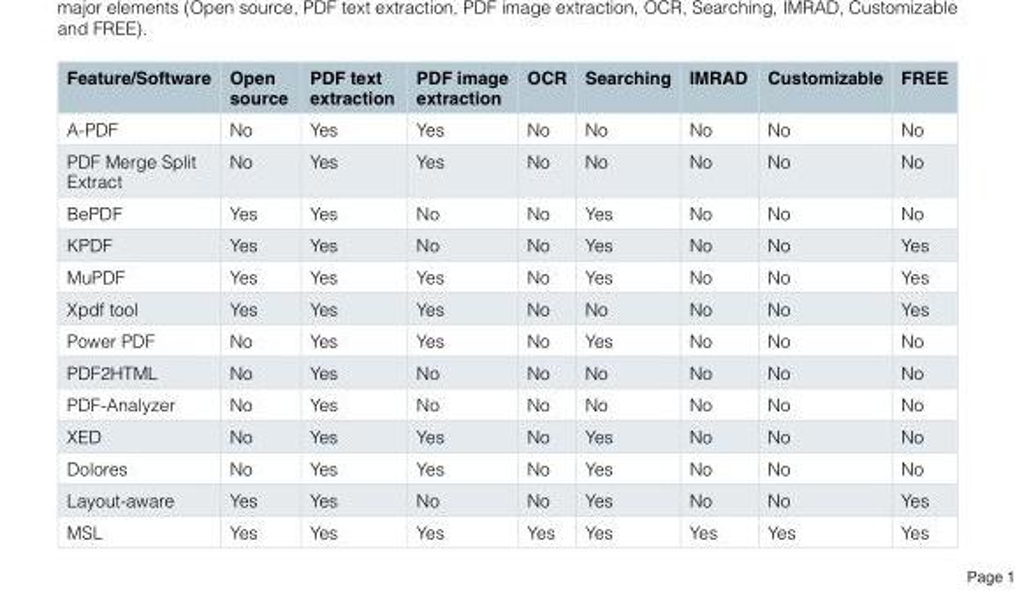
<table><thead><tr><td>Feature/Software</td><td>Open source</td><td>PDF text extraction</td><td>PDF image extraction</td><td>OCR</td><td>Searching</td><td>IMRAD</td><td>Customizable</td><td>FREE</td></tr></thead><tbody><tr><td>A-PDF</td><td>No</td><td>Yes</td><td>Yes</td><td>No</td><td>No</td><td>No</td><td>No</td><td>No</td></tr><tr><td>PDF Merge Split Extract</td><td>No</td><td>Yes</td><td>Yes</td><td>No</td><td>No</td><td>No</td><td>No</td><td>No</td></tr><tr><td>BePDF</td><td>Yes</td><td>Yes</td><td>No</td><td>No</td><td>Yes</td><td>No</td><td>No</td><td>No</td></tr><tr><td>KPDF</td><td>Yes</td><td>Yes</td><td>No</td><td>No</td><td>Yes</td><td>No</td><td>No</td><td>Yes</td></tr><tr><td>MuPDF</td><td>Yes</td><td>Yes</td><td>Yes</td><td>No</td><td>Yes</td><td>No</td><td>No</td><td>Yes</td></tr><tr><td>Xpdf tool</td><td>Yes</td><td>Yes</td><td>Yes</td><td>No</td><td>No</td><td>No</td><td>No</td><td>Yes</td></tr><tr><td>Power PDF</td><td>No</td><td>Yes</td><td>Yes</td><td>No</td><td>Yes</td><td>No</td><td>No</td><td>No</td></tr><tr><td>PDF2HTML</td><td>No</td><td>Yes</td><td>No</td><td>No</td><td>No</td><td>No</td><td>No</td><td>No</td></tr><tr><td>PDF-Analyzer</td><td>No</td><td>Yes</td><td>No</td><td>No</td><td>No</td><td>No</td><td>No</td><td>No</td></tr><tr><td>XED</td><td>No</td><td>Yes</td><td>Yes</td><td>No</td><td>Yes</td><td>No</td><td>No</td><td>No</td></tr><tr><td>Dolores</td><td>No</td><td>Yes</td><td>Yes</td><td>No</td><td>Yes</td><td>No</td><td>No</td><td>No</td></tr><tr><td>Layout-aware</td><td>Yes</td><td>Yes</td><td>No</td><td>No</td><td>Yes</td><td>No</td><td>No</td><td>Yes</td></tr><tr><td>MSL</td><td>Yes</td><td>Yes</td><td>Yes</td><td>Yes</td><td>Yes</td><td>Yes</td><td>Yes</td><td>Yes</td></tr></tbody></table>